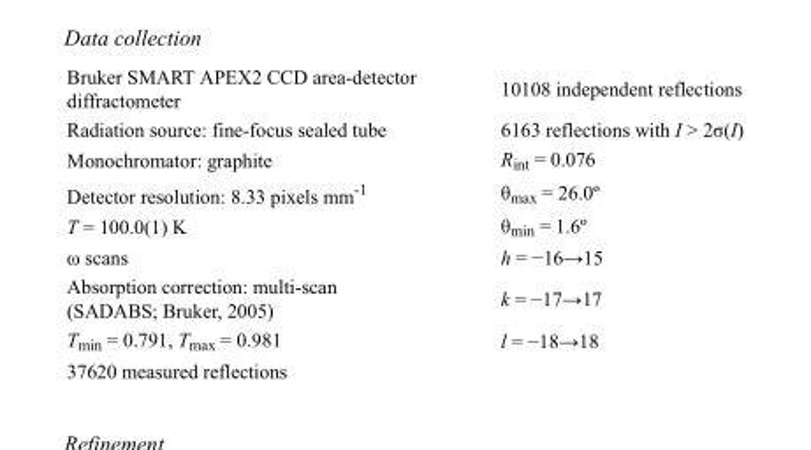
<table><tbody><tr><td>Bruker SMART APEX2 CCD area-detector diffractometer</td><td>10108 independent reflections</td></tr><tr><td>Radiation source: fine-focus sealed tube</td><td>6163 reflections with I &gt; 2σ(I)</td></tr><tr><td>Monochromator: graphite</td><td>R<sub>int</sub> = 0.076</td></tr><tr><td>Detector resolution: 8.33 pixels mm<sup>-1</sup></td><td>θ<sub>max</sub> = 26.0º</td></tr><tr><td>T = 100.0(1) K</td><td>θ<sub>min</sub> = 1.6º</td></tr><tr><td>ω scans</td><td>h = −16→15</td></tr><tr><td>Absorption correction: multi-scan (SADABS; Bruker, 2005)</td><td>k = −17→17</td></tr><tr><td>T<sub>min</sub> = 0.791, T<sub>max</sub> = 0.981</td><td>l = −18→18</td></tr><tr><td>37620 measured reflections</td><td></td></tr></tbody></table>